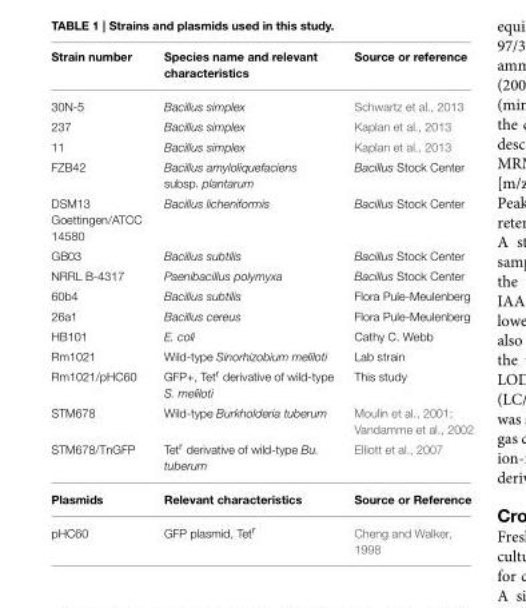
<table><thead><tr><td>Strain number</td><td>Species name and relevant characteristics</td><td>Source or reference</td></tr></thead><tbody><tr><td>30N-5</td><td>Bacillus simplex</td><td>Schwartz et al., 2013</td></tr><tr><td>237</td><td>Bacillus simplex</td><td>Kaplan et al., 2013</td></tr><tr><td>11</td><td>Bacillus simplex</td><td>Kaplan et al., 2013</td></tr><tr><td>FZB42</td><td>Bacillus amyloliquefaciens subsp. plantarum</td><td>Bacillus Stock Center</td></tr><tr><td>DSM13 Goettingen/ATCC 14580</td><td>Bacillus licheniformis</td><td>Bacillus Stock Center</td></tr><tr><td>GB03</td><td>Bacillus subtilis</td><td>Bacillus Stock Center</td></tr><tr><td>NRRL B-4317</td><td>Paenibacillus polymyxa</td><td>Bacillus Stock Center</td></tr><tr><td>60b4</td><td>Bacillus subtilis</td><td>Flora Pule-Meulenberg</td></tr><tr><td>26a1</td><td>Bacillus cereus</td><td>Flora Pule-Meulenberg</td></tr><tr><td>HB101</td><td>E. coli</td><td>Cathy C. Webb</td></tr><tr><td>Rm1021</td><td>Wild-type Sinorhizobium meliloti</td><td>Lab strain</td></tr><tr><td>Rm1021/pHC60</td><td>GFP+, Tet<sup>r</sup> derivative of wild-type S. meliloti</td><td>This study</td></tr><tr><td>STM678</td><td>Wild-type Burkholderia tuberum</td><td>Moulin et al., 2001; Vandamme et al., 2002</td></tr><tr><td>STM678/TnGFP</td><td>Tet<sup>r</sup> derivative of wild-type Bu. tuberum</td><td>Elliott et al., 2007</td></tr><tr><td>Plasmids</td><td>Relevant characteristics</td><td>Source or Reference</td></tr><tr><td>pHC60</td><td>GFP plasmid, Tet<sup>r</sup></td><td>Cheng and Walker, 1998</td></tr></tbody></table>